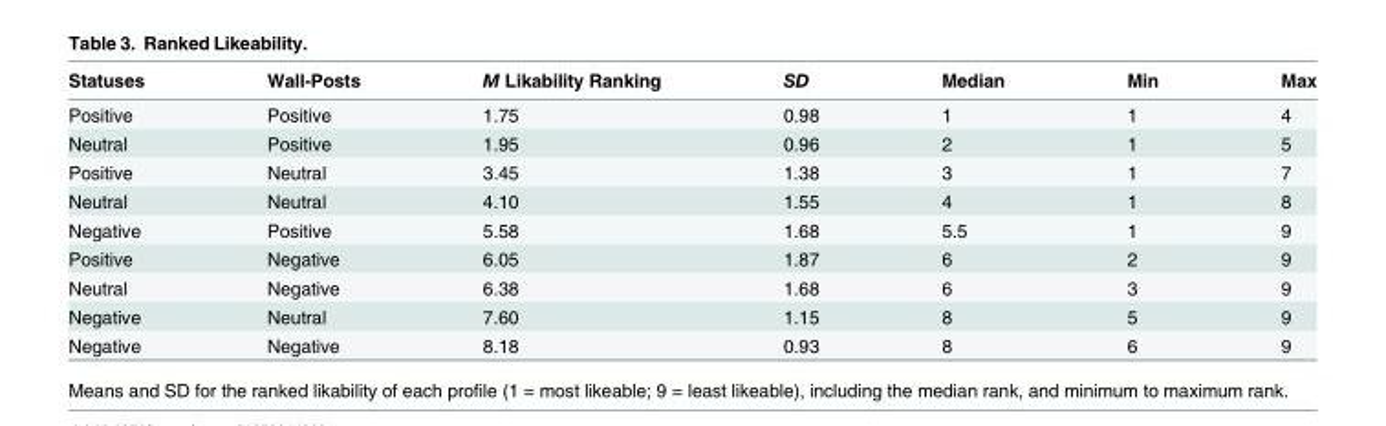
<table><thead><tr><td>Statuses</td><td>Wall-Posts</td><td>M Likability Ranking</td><td>SD</td><td>Median</td><td>Min</td><td>Max</td></tr></thead><tbody><tr><td>Positive</td><td>Positive</td><td>1.75</td><td>0.98</td><td>1</td><td>1</td><td>4</td></tr><tr><td>Neutral</td><td>Positive</td><td>1.95</td><td>0.96</td><td>2</td><td>1</td><td>5</td></tr><tr><td>Positive</td><td>Neutral</td><td>3.45</td><td>1.38</td><td>3</td><td>1</td><td>7</td></tr><tr><td>Neutral</td><td>Neutral</td><td>4.10</td><td>1.55</td><td>4</td><td>1</td><td>8</td></tr><tr><td>Negative</td><td>Positive</td><td>5.58</td><td>1.68</td><td>5.5</td><td>1</td><td>9</td></tr><tr><td>Positive</td><td>Negative</td><td>6.05</td><td>1.87</td><td>6</td><td>2</td><td>9</td></tr><tr><td>Neutral</td><td>Negative</td><td>6.38</td><td>1.68</td><td>6</td><td>3</td><td>9</td></tr><tr><td>Negative</td><td>Neutral</td><td>7.60</td><td>1.15</td><td>8</td><td>5</td><td>9</td></tr><tr><td>Negative</td><td>Negative</td><td>8.18</td><td>0.93</td><td>8</td><td>6</td><td>9</td></tr></tbody></table>